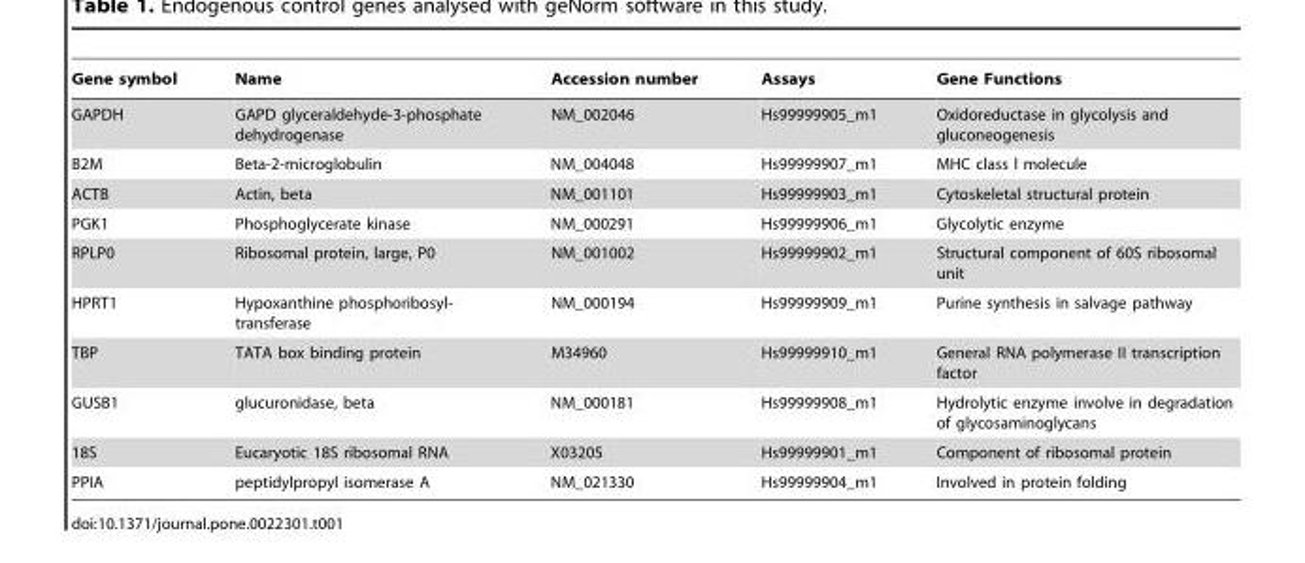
<table><thead><tr><td>Gene symbol</td><td>Name</td><td>Accession number</td><td>Assays</td><td>Gene Functions</td></tr></thead><tbody><tr><td>GAPDH</td><td>GAPD glyceraldehyde-3-phosphate dehydrogenase</td><td>NM_002046</td><td>Hs99999905_m1</td><td>Oxidoreductase in glycolysis and gluconeogenesis</td></tr><tr><td>B2M</td><td>Beta-2-microglobulin</td><td>NM_004048</td><td>Hs99999907_m1</td><td>MHC class l molecule</td></tr><tr><td>ACTB</td><td>Actin, beta</td><td>NM_001101</td><td>Hs99999903_m1</td><td>Cytoskeletal structural protein</td></tr><tr><td>PGK1</td><td>Phosphoglycerate kinase</td><td>NM_000291</td><td>Hs99999906_m1</td><td>Glycolytic enzyme</td></tr><tr><td>RPLP0</td><td>Ribosomal protein, large, P0</td><td>NM_001002</td><td>Hs99999902_m1</td><td>Structural component of 60S ribosomal unit</td></tr><tr><td>HPRT1</td><td>Hypoxanthine phosphoribosyl- transferase</td><td>NM_000194</td><td>Hs99999909_m1</td><td>Purine synthesis in salvage pathway</td></tr><tr><td>TBP</td><td>TATA box binding protein</td><td>M34960</td><td>Hs99999910_m1</td><td>General RNA polymerase II transcription factor</td></tr><tr><td>GUSB1</td><td>glucuronidase, beta</td><td>NM_000181</td><td>Hs99999908_m1</td><td>Hydrolytic enzyme involve in degradation of glycosaminoglycans</td></tr><tr><td>18S</td><td>Eucaryotic 18S ribosomal RNA</td><td>X03205</td><td>Hs99999901_m1</td><td>Component of ribosomal protein</td></tr><tr><td>PPIA</td><td>peptidylpropyl isomerase A</td><td>NM_021330</td><td>Hs99999904_m1</td><td>Involved in protein folding</td></tr></tbody></table>